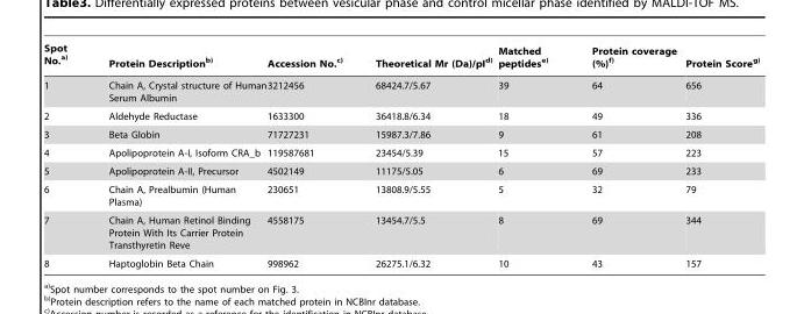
<table><thead><tr><td>Spot No.a)</td><td>Protein Descriptionb)</td><td>Accession No.c)</td><td>Theoretical Mr (Da)/pId)</td><td>Matched peptidese)</td><td>Protein coverage (%)f)</td><td>Protein Scoreg)</td></tr></thead><tbody><tr><td>1</td><td>Chain A, Crystal structure of Human Serum Albumin</td><td>3212456</td><td>68424.7/5.67</td><td>39</td><td>64</td><td>656</td></tr><tr><td>2</td><td>Aldehyde Reductase</td><td>1633300</td><td>36418.8/6.34</td><td>18</td><td>49</td><td>336</td></tr><tr><td>3</td><td>Beta Globin</td><td>71727231</td><td>15987.3/7.86</td><td>9</td><td>61</td><td>208</td></tr><tr><td>4</td><td>Apolipoprotein A-I, Isoform CRA_b</td><td>119587681</td><td>23454/5.39</td><td>15</td><td>57</td><td>223</td></tr><tr><td>5</td><td>Apolipoprotein A-II, Precursor</td><td>4502149</td><td>11175/5.05</td><td>6</td><td>69</td><td>233</td></tr><tr><td>6</td><td>Chain A, Prealbumin (Human Plasma)</td><td>230651</td><td>13808.9/5.55</td><td>5</td><td>32</td><td>79</td></tr><tr><td>7</td><td>Chain A, Human Retinol Binding Protein With Its Carrier Protein Transthyretin Reve</td><td>4558175</td><td>13454.7/5.5</td><td>8</td><td>69</td><td>344</td></tr><tr><td>8</td><td>Haptoglobin Beta Chain</td><td>998962</td><td>26275.1/6.32</td><td>10</td><td>43</td><td>157</td></tr></tbody></table>